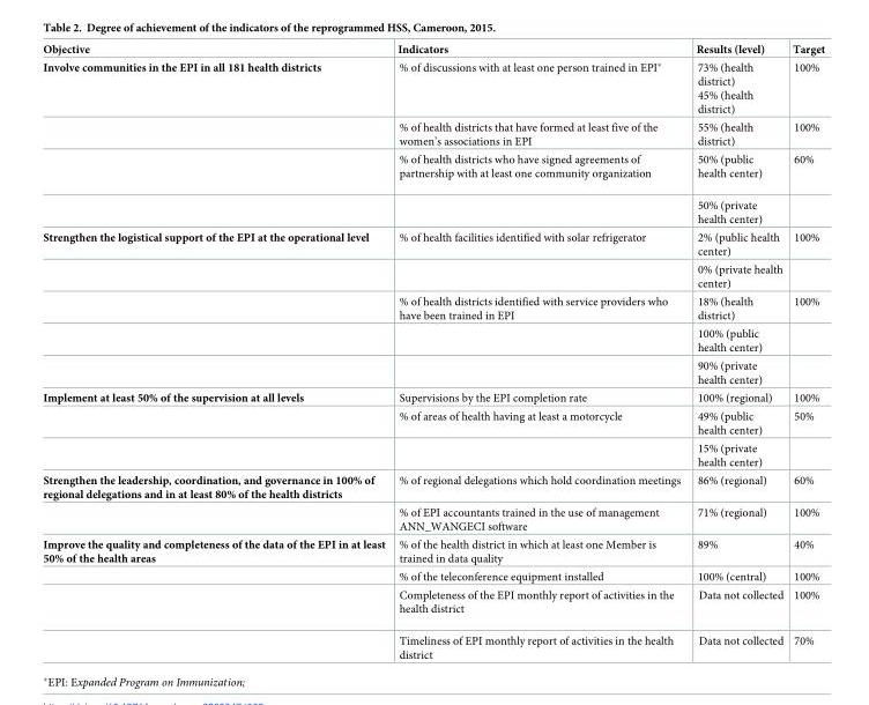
<table><thead><tr><td>Objective</td><td>Indicators</td><td>Results (level)</td><td>Target</td></tr></thead><tbody><tr><td rowspan="4">Involve communities in the EPI in all 181 health districts</td><td>% of discussions with at least one person trained in EPI*</td><td>73% (health district) 45% (health district)</td><td>100%</td></tr><tr><td>% of health districts that have formed at least five of the women’s associations in EPI</td><td>55% (health district)</td><td>100%</td></tr><tr><td>% of health districts who have signed agreements of partnership with at least one community organization</td><td>50% (public health center)</td><td>60%</td></tr><tr><td></td><td>50% (private health center)</td><td></td></tr><tr><td rowspan="5">Strengthen the logistical support of the EPI at the operational level</td><td>% of health facilities identified with solar refrigerator</td><td>2% (public health center)</td><td>100%</td></tr><tr><td></td><td>0% (private health center)</td><td></td></tr><tr><td>% of health districts identified with service providers who have been trained in EPI</td><td>18% (health district)</td><td>100%</td></tr><tr><td></td><td>100% (public health center)</td><td></td></tr><tr><td></td><td>90% (private health center)</td><td></td></tr><tr><td rowspan="3">Implement at least 50% of the supervision at all levels</td><td>Supervisions by the EPI completion rate</td><td>100% (regional)</td><td>100%</td></tr><tr><td>% of areas of health having at least a motorcycle</td><td>49% (public health center)</td><td>50%</td></tr><tr><td></td><td>15% (private health center)</td><td></td></tr><tr><td rowspan="2">Strengthen the leadership, coordination, and governance in 100% of regional delegations and in at least 80% of the health districts</td><td>% of regional delegations which hold coordination meetings</td><td>86% (regional)</td><td>60%</td></tr><tr><td>% of EPI accountants trained in the use of management ANN_WANGECI software</td><td>71% (regional)</td><td>100%</td></tr><tr><td rowspan="4">Improve the quality and completeness of the data of the EPI in at least 50% of the health areas</td><td>% of the health district in which at least one Member is trained in data quality</td><td>89%</td><td>40%</td></tr><tr><td>% of the teleconference equipment installed</td><td>100% (central)</td><td>100%</td></tr><tr><td>Completeness of the EPI monthly report of activities in the health district</td><td>Data not collected</td><td>100%</td></tr><tr><td>Timeliness of EPI monthly report of activities in the health district</td><td>Data not collected</td><td>70%</td></tr></tbody></table>